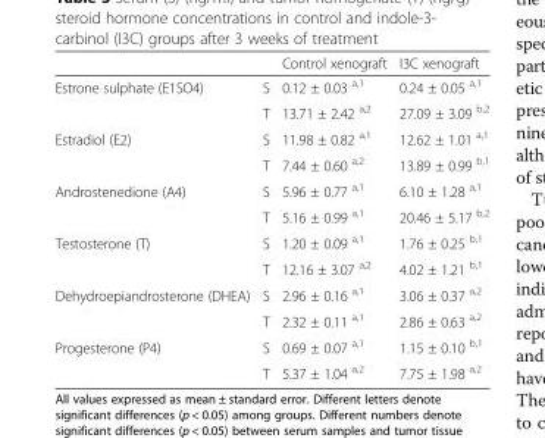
<table><thead><tr><td></td><td></td><td>Control xenograft</td><td>I3C xenograft</td></tr></thead><tbody><tr><td rowspan="2">Estrone sulphate (E1SO4)</td><td>S</td><td>0.12 ± 0.03 <sup>a,1</sup></td><td>0.24 ± 0.05 <sup>a,1</sup></td></tr><tr><td>T</td><td>13.71 ± 2.42 <sup>a,2</sup></td><td>27.09 ± 3.09 <sup>b,2</sup></td></tr><tr><td rowspan="2">Estradiol (E2)</td><td>S</td><td>11.98 ± 0.82 <sup>a,1</sup></td><td>12.62 ± 1.01 <sup>a,1</sup></td></tr><tr><td>T</td><td>7.44 ± 0.60 <sup>a,2</sup></td><td>13.89 ± 0.99 <sup>b,1</sup></td></tr><tr><td rowspan="2">Androstenedione (A4)</td><td>S</td><td>5.96 ± 0.77 <sup>a,1</sup></td><td>6.10 ± 1.28 <sup>a,1</sup></td></tr><tr><td>T</td><td>5.16 ± 0.99 <sup>a,1</sup></td><td>20.46 ± 5.17 <sup>b,2</sup></td></tr><tr><td rowspan="2">Testosterone (T)</td><td>S</td><td>1.20 ± 0.09 <sup>a,1</sup></td><td>1.76 ± 0.25 <sup>b,1</sup></td></tr><tr><td>T</td><td>12.16 ± 3.07 <sup>a,2</sup></td><td>4.02 ± 1.21 <sup>b,1</sup></td></tr><tr><td rowspan="2">Dehydroepiandrosterone (DHEA)</td><td>S</td><td>2.96 ± 0.16 <sup>a,1</sup></td><td>3.06 ± 0.37 <sup>a,2</sup></td></tr><tr><td>T</td><td>2.32 ± 0.11 <sup>a,1</sup></td><td>2.86 ± 0.63 <sup>a,2</sup></td></tr><tr><td rowspan="2">Progesterone (P4)</td><td>S</td><td>0.69 ± 0.07 <sup>a,1</sup></td><td>1.15 ± 0.10 <sup>b,1</sup></td></tr><tr><td>T</td><td>5.37 ± 1.04 <sup>a,2</sup></td><td>7.75 ± 1.98 <sup>a,2</sup></td></tr></tbody></table>